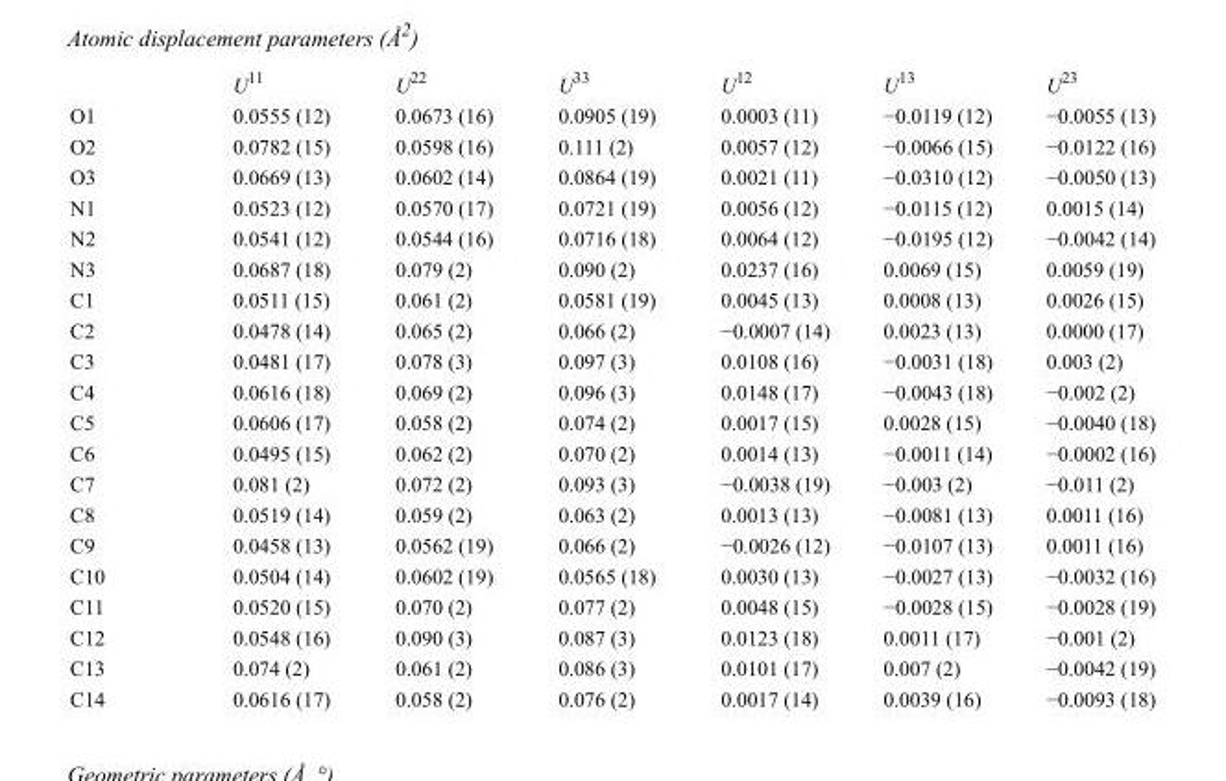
<table><thead><tr><td></td><td>U<sup>11</sup></td><td>U<sup>22</sup></td><td>U<sup>33</sup></td><td>U<sup>12</sup></td><td>U<sup>13</sup></td><td>U<sup>23</sup></td></tr></thead><tbody><tr><td>O1</td><td>0.0555 (12)</td><td>0.0673 (16)</td><td>0.0905 (19)</td><td>0.0003 (11)</td><td>−0.0119 (12)</td><td>−0.0055 (13)</td></tr><tr><td>O2</td><td>0.0782 (15)</td><td>0.0598 (16)</td><td>0.111 (2)</td><td>0.0057 (12)</td><td>−0.0066 (15)</td><td>−0.0122 (16)</td></tr><tr><td>O3</td><td>0.0669 (13)</td><td>0.0602 (14)</td><td>0.0864 (19)</td><td>0.0021 (11)</td><td>−0.0310 (12)</td><td>−0.0050 (13)</td></tr><tr><td>N1</td><td>0.0523 (12)</td><td>0.0570 (17)</td><td>0.0721 (19)</td><td>0.0056 (12)</td><td>−0.0115 (12)</td><td>0.0015 (14)</td></tr><tr><td>N2</td><td>0.0541 (12)</td><td>0.0544 (16)</td><td>0.0716 (18)</td><td>0.0064 (12)</td><td>−0.0195 (12)</td><td>−0.0042 (14)</td></tr><tr><td>N3</td><td>0.0687 (18)</td><td>0.079 (2)</td><td>0.090 (2)</td><td>0.0237 (16)</td><td>0.0069 (15)</td><td>0.0059 (19)</td></tr><tr><td>C1</td><td>0.0511 (15)</td><td>0.061 (2)</td><td>0.0581 (19)</td><td>0.0045 (13)</td><td>0.0008 (13)</td><td>0.0026 (15)</td></tr><tr><td>C2</td><td>0.0478 (14)</td><td>0.065 (2)</td><td>0.066 (2)</td><td>−0.0007 (14)</td><td>0.0023 (13)</td><td>0.0000 (17)</td></tr><tr><td>C3</td><td>0.0481 (17)</td><td>0.078 (3)</td><td>0.097 (3)</td><td>0.0108 (16)</td><td>−0.0031 (18)</td><td>0.003 (2)</td></tr><tr><td>C4</td><td>0.0616 (18)</td><td>0.069 (2)</td><td>0.096 (3)</td><td>0.0148 (17)</td><td>−0.0043 (18)</td><td>−0.002 (2)</td></tr><tr><td>C5</td><td>0.0606 (17)</td><td>0.058 (2)</td><td>0.074 (2)</td><td>0.0017 (15)</td><td>0.0028 (15)</td><td>−0.0040 (18)</td></tr><tr><td>C6</td><td>0.0495 (15)</td><td>0.062 (2)</td><td>0.070 (2)</td><td>0.0014 (13)</td><td>−0.0011 (14)</td><td>−0.0002 (16)</td></tr><tr><td>C7</td><td>0.081 (2)</td><td>0.072 (2)</td><td>0.093 (3)</td><td>−0.0038 (19)</td><td>−0.003 (2)</td><td>−0.011 (2)</td></tr><tr><td>C8</td><td>0.0519 (14)</td><td>0.059 (2)</td><td>0.063 (2)</td><td>0.0013 (13)</td><td>−0.0081 (13)</td><td>0.0011 (16)</td></tr><tr><td>C9</td><td>0.0458 (13)</td><td>0.0562 (19)</td><td>0.066 (2)</td><td>−0.0026 (12)</td><td>−0.0107 (13)</td><td>0.0011 (16)</td></tr><tr><td>C10</td><td>0.0504 (14)</td><td>0.0602 (19)</td><td>0.0565 (18)</td><td>0.0030 (13)</td><td>−0.0027 (13)</td><td>−0.0032 (16)</td></tr><tr><td>C11</td><td>0.0520 (15)</td><td>0.070 (2)</td><td>0.077 (2)</td><td>0.0048 (15)</td><td>−0.0028 (15)</td><td>−0.0028 (19)</td></tr><tr><td>C12</td><td>0.0548 (16)</td><td>0.090 (3)</td><td>0.087 (3)</td><td>0.0123 (18)</td><td>0.0011 (17)</td><td>−0.001 (2)</td></tr><tr><td>C13</td><td>0.074 (2)</td><td>0.061 (2)</td><td>0.086 (3)</td><td>0.0101 (17)</td><td>0.007 (2)</td><td>−0.0042 (19)</td></tr><tr><td>C14</td><td>0.0616 (17)</td><td>0.058 (2)</td><td>0.076 (2)</td><td>0.0017 (14)</td><td>0.0039 (16)</td><td>−0.0093 (18)</td></tr></tbody></table>